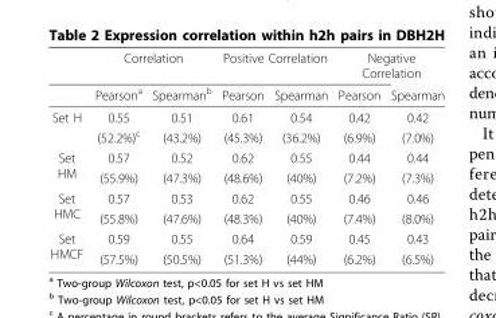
<table><thead><tr><td rowspan="2"></td><td colspan="2">Correlation</td><td colspan="2">Positive Correlation</td><td colspan="2">Negative Correlation</td></tr><tr><td>Pearson<sup>a</sup></td><td>Spearman<sup>b</sup></td><td>Pearson</td><td>Spearman</td><td>Pearson</td><td>Spearman</td></tr></thead><tbody><tr><td rowspan="2">Set H</td><td>0.55</td><td>0.51</td><td>0.61</td><td>0.54</td><td>0.42</td><td>0.42</td></tr><tr><td>(52.2%)<sup>c</sup></td><td>(43.2%)</td><td>(45.3%)</td><td>(36.2%)</td><td>(6.9%)</td><td>(7.0%)</td></tr><tr><td rowspan="2">Set HM</td><td>0.57</td><td>0.52</td><td>0.62</td><td>0.55</td><td>0.44</td><td>0.44</td></tr><tr><td>(55.9%)</td><td>(47.3%)</td><td>(48.6%)</td><td>(40%)</td><td>(7.2%)</td><td>(7.3%)</td></tr><tr><td rowspan="2">Set HMC</td><td>0.57</td><td>0.53</td><td>0.62</td><td>0.55</td><td>0.46</td><td>0.46</td></tr><tr><td>(55.8%)</td><td>(47.6%)</td><td>(48.3%)</td><td>(40%)</td><td>(7.4%)</td><td>(8.0%)</td></tr><tr><td rowspan="2">Set HMCF</td><td>0.59</td><td>0.55</td><td>0.64</td><td>0.59</td><td>0.45</td><td>0.43</td></tr><tr><td>(57.5%)</td><td>(50.5%)</td><td>(51.3%)</td><td>(44%)</td><td>(6.2%)</td><td>(6.5%)</td></tr></tbody></table>